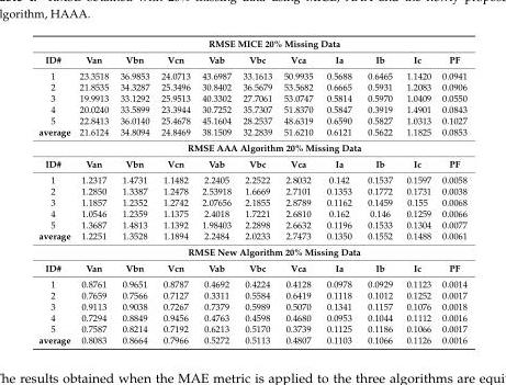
<table><thead><tr><td rowspan="2">ID#</td><td colspan="10">RMSE MICE 20% Missing Data</td></tr><tr><td>Van</td><td>Vbn</td><td>Vcn</td><td>Vab</td><td>Vbc</td><td>Vca</td><td>Ia</td><td>Ib</td><td>Ic</td><td>PF</td></tr></thead><tbody><tr><td>1</td><td>23.3518</td><td>36.9853</td><td>24.0713</td><td>43.6987</td><td>33.1613</td><td>50.9935</td><td>0.5688</td><td>0.6465</td><td>1.1420</td><td>0.0941</td></tr><tr><td>2</td><td>21.8535</td><td>34.3287</td><td>25.3496</td><td>30.8402</td><td>36.5679</td><td>53.5682</td><td>0.6665</td><td>0.5931</td><td>1.2083</td><td>0.0906</td></tr><tr><td>3</td><td>19.9913</td><td>33.1292</td><td>25.9513</td><td>40.3302</td><td>27.7061</td><td>53.0747</td><td>0.5814</td><td>0.5970</td><td>1.0409</td><td>0.0550</td></tr><tr><td>4</td><td>20.0240</td><td>33.5899</td><td>23.3944</td><td>30.7252</td><td>35.7307</td><td>51.8370</td><td>0.5847</td><td>0.3919</td><td>1.4901</td><td>0.0843</td></tr><tr><td>5</td><td>22.8413</td><td>36.0140</td><td>25.4678</td><td>45.1604</td><td>28.2537</td><td>48.6319</td><td>0.6590</td><td>0.5827</td><td>1.0313</td><td>0.1027</td></tr><tr><td rowspan="2">average</td><td>21.6124</td><td>34.8094</td><td>24.8469</td><td>38.1509</td><td>32.2839</td><td>51.6210</td><td>0.6121</td><td>0.5622</td><td>1.1825</td><td>0.0853</td></tr><tr><td colspan="10">RMSE AAA Algorithm 20% Missing Data</td></tr><tr><td>ID#</td><td>Van</td><td>Vbn</td><td>Vcn</td><td>Vab</td><td>Vbc</td><td>Vca</td><td>Ia</td><td>Ib</td><td>Ic</td><td>PF</td></tr><tr><td>1</td><td>1.2317</td><td>1.4731</td><td>1.1482</td><td>2.2405</td><td>2.2522</td><td>2.8032</td><td>0.142</td><td>0.1537</td><td>0.1597</td><td>0.0058</td></tr><tr><td>2</td><td>1.2850</td><td>1.3387</td><td>1.2478</td><td>2.53918</td><td>1.6669</td><td>2.7101</td><td>0.1353</td><td>0.1772</td><td>0.1731</td><td>0.0038</td></tr><tr><td>3</td><td>1.1857</td><td>1.2352</td><td>1.2742</td><td>2.07656</td><td>2.1855</td><td>2.8789</td><td>0.1162</td><td>0.1459</td><td>0.155</td><td>0.0068</td></tr><tr><td>4</td><td>1.0546</td><td>1.2359</td><td>1.1375</td><td>2.4018</td><td>1.7221</td><td>2.6810</td><td>0.162</td><td>0.146</td><td>0.1259</td><td>0.0066</td></tr><tr><td>5</td><td>1.3687</td><td>1.4813</td><td>1.1392</td><td>1.98403</td><td>2.2898</td><td>2.6632</td><td>0.1196</td><td>0.1533</td><td>0.1304</td><td>0.0077</td></tr><tr><td rowspan="2">average</td><td>1.2251</td><td>1.3528</td><td>1.1894</td><td>2.2484</td><td>2.0233</td><td>2.7473</td><td>0.1350</td><td>0.1552</td><td>0.1488</td><td>0.0061</td></tr><tr><td colspan="10">RMSE New Algorithm 20% Missing Data</td></tr><tr><td>ID#</td><td>Van</td><td>Vbn</td><td>Vcn</td><td>Vab</td><td>Vbc</td><td>Vca</td><td>Ia</td><td>Ib</td><td>Ic</td><td>PF</td></tr><tr><td>1</td><td>0.8761</td><td>0.9651</td><td>0.8787</td><td>0.4692</td><td>0.4224</td><td>0.4128</td><td>0.0978</td><td>0.0929</td><td>0.1123</td><td>0.0014</td></tr><tr><td>2</td><td>0.7659</td><td>0.7566</td><td>0.7127</td><td>0.3311</td><td>0.5584</td><td>0.6419</td><td>0.1118</td><td>0.1012</td><td>0.1252</td><td>0.0017</td></tr><tr><td>3</td><td>0.9113</td><td>0.9038</td><td>0.7267</td><td>0.7379</td><td>0.5989</td><td>0.5070</td><td>0.1341</td><td>0.1157</td><td>0.1076</td><td>0.0018</td></tr><tr><td>4</td><td>0.7294</td><td>0.8849</td><td>0.9456</td><td>0.4763</td><td>0.4598</td><td>0.4680</td><td>0.0953</td><td>0.1044</td><td>0.1112</td><td>0.0016</td></tr><tr><td>5</td><td>0.7587</td><td>0.8214</td><td>0.7192</td><td>0.6213</td><td>0.5170</td><td>0.3739</td><td>0.1125</td><td>0.1186</td><td>0.1066</td><td>0.0017</td></tr><tr><td>average</td><td>0.8083</td><td>0.8664</td><td>0.7966</td><td>0.5272</td><td>0.5113</td><td>0.4807</td><td>0.1103</td><td>0.1066</td><td>0.1126</td><td>0.0016</td></tr></tbody></table>